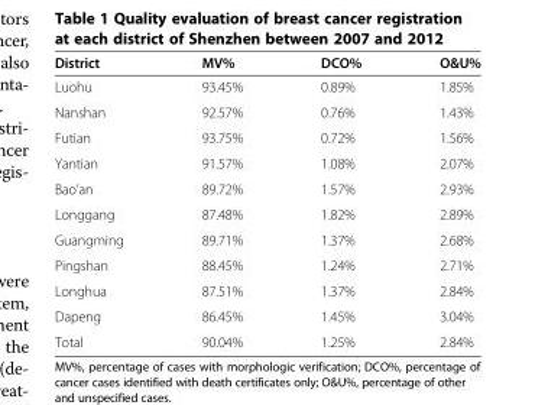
<table><thead><tr><td>District</td><td>MV%</td><td>DCO%</td><td>O&amp;U%</td></tr></thead><tbody><tr><td>Luohu</td><td>93.45%</td><td>0.89%</td><td>1.85%</td></tr><tr><td>Nanshan</td><td>92.57%</td><td>0.76%</td><td>1.43%</td></tr><tr><td>Futian</td><td>93.75%</td><td>0.72%</td><td>1.56%</td></tr><tr><td>Yantian</td><td>91.57%</td><td>1.08%</td><td>2.07%</td></tr><tr><td>Bao’an</td><td>89.72%</td><td>1.57%</td><td>2.93%</td></tr><tr><td>Longgang</td><td>87.48%</td><td>1.82%</td><td>2.89%</td></tr><tr><td>Guangming</td><td>89.71%</td><td>1.37%</td><td>2.68%</td></tr><tr><td>Pingshan</td><td>88.45%</td><td>1.24%</td><td>2.71%</td></tr><tr><td>Longhua</td><td>87.51%</td><td>1.37%</td><td>2.84%</td></tr><tr><td>Dapeng</td><td>86.45%</td><td>1.45%</td><td>3.04%</td></tr><tr><td>Total</td><td>90.04%</td><td>1.25%</td><td>2.84%</td></tr></tbody></table>